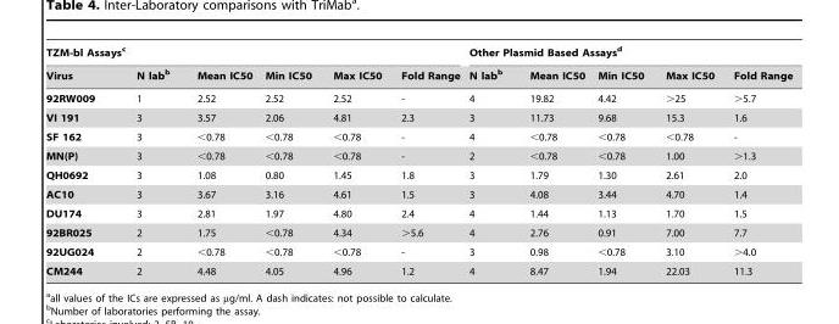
<table><thead><tr><td colspan="6">TZM-bl Assays<sup>c</sup></td><td colspan="5">Other Plasmid Based Assays<sup>d</sup></td></tr><tr><td>Virus</td><td>N lab<sup>b</sup></td><td>Mean IC50</td><td>Min IC50</td><td>Max IC50</td><td>Fold Range</td><td>N lab<sup>b</sup></td><td>Mean IC50</td><td>Min IC50</td><td>Max IC50</td><td>Fold Range</td></tr></thead><tbody><tr><td>92RW009</td><td>1</td><td>2.52</td><td>2.52</td><td>2.52</td><td>-</td><td>4</td><td>19.82</td><td>4.42</td><td>&gt;25</td><td>&gt;5.7</td></tr><tr><td>VI 191</td><td>3</td><td>3.57</td><td>2.06</td><td>4.81</td><td>2.3</td><td>3</td><td>11.73</td><td>9.68</td><td>15.3</td><td>1.6</td></tr><tr><td>SF 162</td><td>3</td><td>&lt;0.78</td><td>&lt;0.78</td><td>&lt;0.78</td><td>-</td><td>4</td><td>&lt;0.78</td><td>&lt;0.78</td><td>&lt;0.78</td><td>-</td></tr><tr><td>MN(P)</td><td>3</td><td>&lt;0.78</td><td>&lt;0.78</td><td>&lt;0.78</td><td>-</td><td>2</td><td>&lt;0.78</td><td>&lt;0.78</td><td>1.00</td><td>&gt;1.3</td></tr><tr><td>QH0692</td><td>3</td><td>1.08</td><td>0.80</td><td>1.45</td><td>1.8</td><td>3</td><td>1.79</td><td>1.30</td><td>2.61</td><td>2.0</td></tr><tr><td>AC10</td><td>3</td><td>3.67</td><td>3.16</td><td>4.61</td><td>1.5</td><td>3</td><td>4.08</td><td>3.44</td><td>4.70</td><td>1.4</td></tr><tr><td>DU174</td><td>3</td><td>2.81</td><td>1.97</td><td>4.80</td><td>2.4</td><td>4</td><td>1.44</td><td>1.13</td><td>1.70</td><td>1.5</td></tr><tr><td>92BR025</td><td>2</td><td>1.75</td><td>&lt;0.78</td><td>4.34</td><td>&gt;5.6</td><td>4</td><td>2.76</td><td>0.91</td><td>7.00</td><td>7.7</td></tr><tr><td>92UG024</td><td>2</td><td>&lt;0.78</td><td>&lt;0.78</td><td>&lt;0.78</td><td>-</td><td>3</td><td>0.98</td><td>&lt;0.78</td><td>3.10</td><td>&gt;4.0</td></tr><tr><td>CM244</td><td>2</td><td>4.48</td><td>4.05</td><td>4.96</td><td>1.2</td><td>4</td><td>8.47</td><td>1.94</td><td>22.03</td><td>11.3</td></tr></tbody></table>